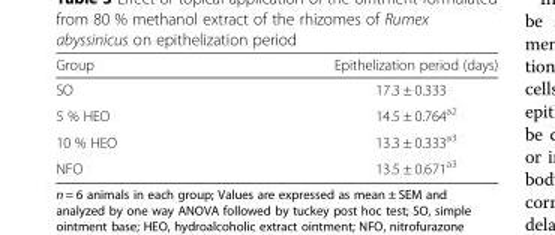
<table><thead><tr><td>Group</td><td>Epithelization period (days)</td></tr></thead><tbody><tr><td>SO</td><td>17.3 ± 0.333</td></tr><tr><td>5 % HEO</td><td>14.5 ± 0.764<sup>a2</sup></td></tr><tr><td>10 % HEO</td><td>13.3 ± 0.333<sup>a3</sup></td></tr><tr><td>NFO</td><td>13.5 ± 0.671<sup>a3</sup></td></tr></tbody></table>